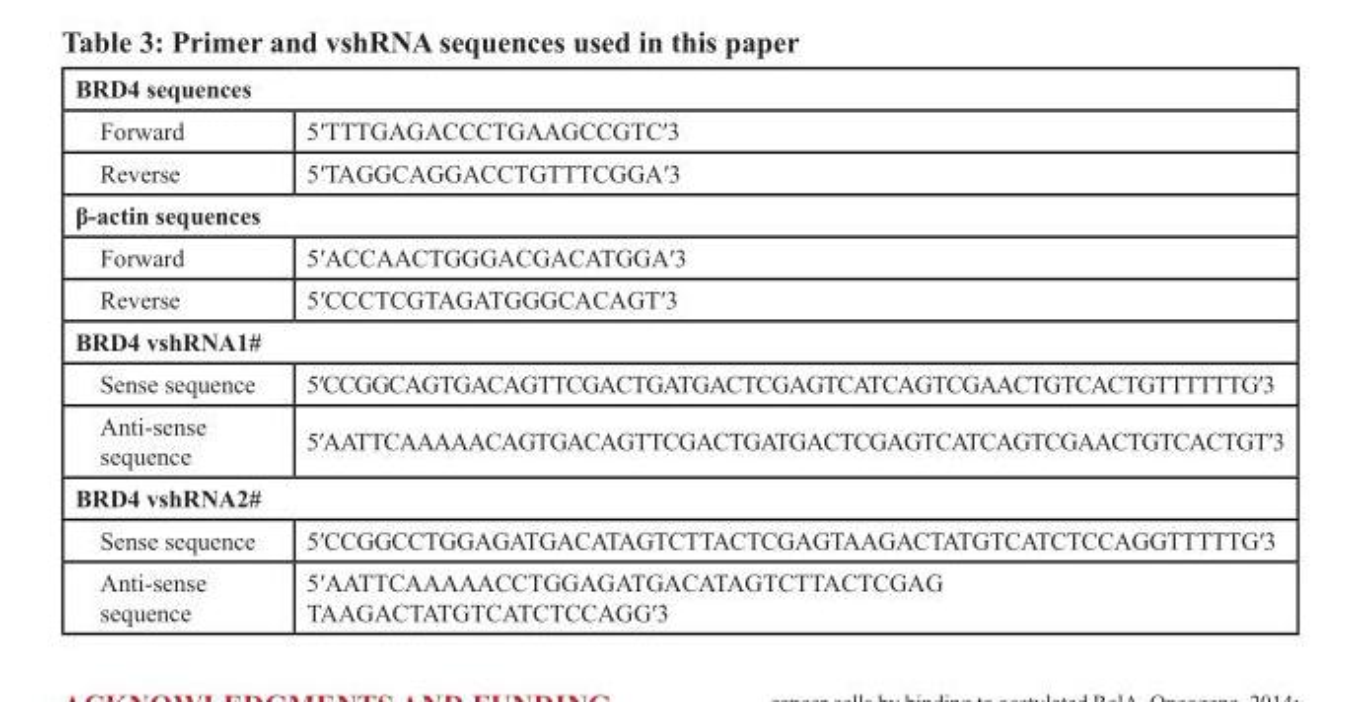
<table><tbody><tr><td colspan="2">BRD4 sequences</td></tr><tr><td>Forward</td><td>5′TTTGAGACCCTGAAGCCGTC′3</td></tr><tr><td>Reverse</td><td>5′TAGGCAGGACCTGTTTCGGA′3</td></tr><tr><td colspan="2">β-actin sequences</td></tr><tr><td>Forward</td><td>5′ACCAACTGGGACGACATGGA′3</td></tr><tr><td>Reverse</td><td>5′CCCTCGTAGATGGGCACAGT′3</td></tr><tr><td colspan="2">BRD4 vshRNA1#</td></tr><tr><td>Sense sequence</td><td>5′CCGGCAGTGACAGTTCGACTGATGACTCGAGTCATCAGTCGAACTGTCACTGTTTTTTG′3</td></tr><tr><td>Anti-sense sequence</td><td>5′AATTCAAAAACAGTGACAGTTCGACTGATGACTCGAGTCATCAGTCGAACTGTCACTGT′3</td></tr><tr><td colspan="2">BRD4 vshRNA2#</td></tr><tr><td>Sense sequence</td><td>5′CCGGCCTGGAGATGACATAGTCTTACTCGAGTAAGACTATGTCATCTCCAGGTTTTTG′3</td></tr><tr><td>Anti-sense sequence</td><td>5′AATTCAAAAACCTGGAGATGACATAGTCTTACTCGAG TAAGACTATGTCATCTCCAGG′3</td></tr></tbody></table>